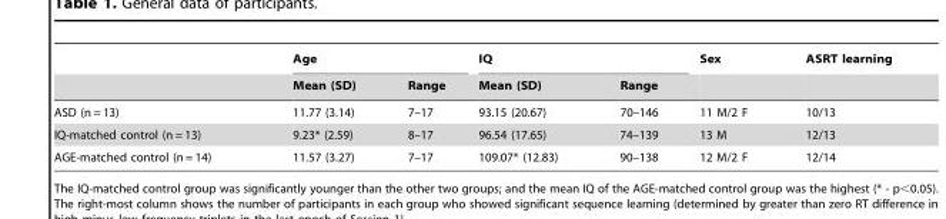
<table><thead><tr><td rowspan="2"></td><td colspan="2">Age</td><td colspan="2">IQ</td><td rowspan="2">Sex</td><td rowspan="2">ASRT learning</td></tr><tr><td>Mean (SD)</td><td>Range</td><td>Mean (SD)</td><td>Range</td></tr></thead><tbody><tr><td>ASD (n = 13)</td><td>11.77 (3.14)</td><td>7–17</td><td>93.15 (20.67)</td><td>70–146</td><td>11 M/2 F</td><td>10/13</td></tr><tr><td>IQ-matched control (n = 13)</td><td>9.23* (2.59)</td><td>8–17</td><td>96.54 (17.65)</td><td>74–139</td><td>13 M</td><td>12/13</td></tr><tr><td>AGE-matched control (n = 14)</td><td>11.57 (3.27)</td><td>7–17</td><td>109.07* (12.83)</td><td>90–138</td><td>12 M/2 F</td><td>12/14</td></tr></tbody></table>